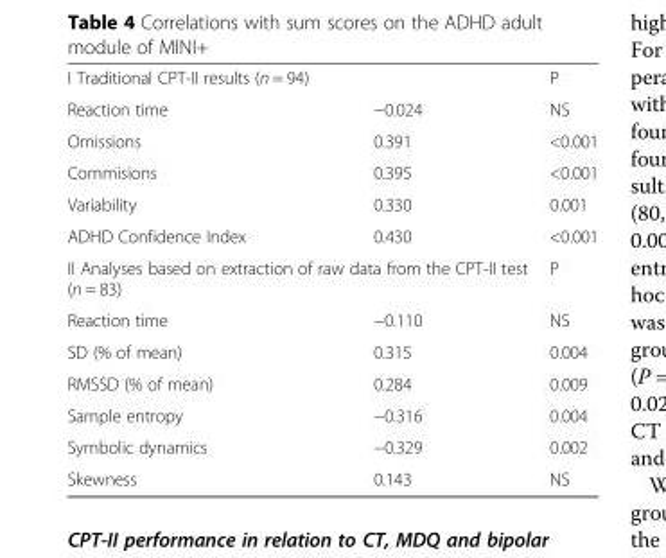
<table><tbody><tr><td colspan="2">I Traditional CPT-II results (n = 94)</td><td>P</td></tr><tr><td>Reaction time</td><td>−0.024</td><td>NS</td></tr><tr><td>Omissions</td><td>0.391</td><td>&lt;0.001</td></tr><tr><td>Commisions</td><td>0.395</td><td>&lt;0.001</td></tr><tr><td>Variability</td><td>0.330</td><td>0.001</td></tr><tr><td>ADHD Confidence Index</td><td>0.430</td><td>&lt;0.001</td></tr><tr><td colspan="2">II Analyses based on extraction of raw data from the CPT-II test (n = 83)</td><td>P</td></tr><tr><td>Reaction time</td><td>−0.110</td><td>NS</td></tr><tr><td>SD (% of mean)</td><td>0.315</td><td>0.004</td></tr><tr><td>RMSSD (% of mean)</td><td>0.284</td><td>0.009</td></tr><tr><td>Sample entropy</td><td>−0.316</td><td>0.004</td></tr><tr><td>Symbolic dynamics</td><td>−0.329</td><td>0.002</td></tr><tr><td>Skewness</td><td>0.143</td><td>NS</td></tr></tbody></table>